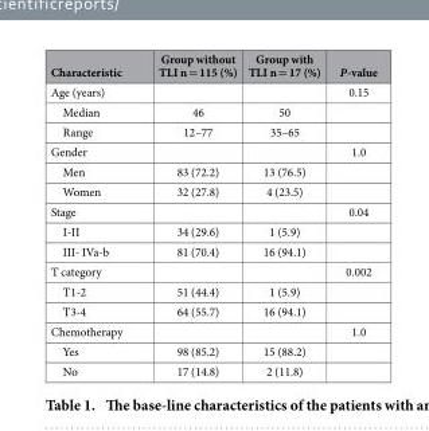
<table><thead><tr><td>Characteristic</td><td>Group without TLI n = 115 (%)</td><td>Group with TLI n = 17 (%)</td><td>P-value</td></tr></thead><tbody><tr><td>Age (years)</td><td></td><td></td><td>0.15</td></tr><tr><td>Median</td><td>46</td><td>50</td><td></td></tr><tr><td>Range</td><td>12–77</td><td>35–65</td><td></td></tr><tr><td>Gender</td><td></td><td></td><td>1.0</td></tr><tr><td>Men</td><td>83 (72.2)</td><td>13 (76.5)</td><td></td></tr><tr><td>Women</td><td>32 (27.8)</td><td>4 (23.5)</td><td></td></tr><tr><td>Stage</td><td></td><td></td><td>0.04</td></tr><tr><td>I-II</td><td>34 (29.6)</td><td>1 (5.9)</td><td></td></tr><tr><td>III- IVa-b</td><td>81 (70.4)</td><td>16 (94.1)</td><td></td></tr><tr><td>T category</td><td></td><td></td><td>0.002</td></tr><tr><td>T1-2</td><td>51 (44.4)</td><td>1 (5.9)</td><td></td></tr><tr><td>T3-4</td><td>64 (55.7)</td><td>16 (94.1)</td><td></td></tr><tr><td>Chemotherapy</td><td></td><td></td><td>1.0</td></tr><tr><td>Yes</td><td>98 (85.2)</td><td>15 (88.2)</td><td></td></tr><tr><td>No</td><td>17 (14.8)</td><td>2 (11.8)</td><td></td></tr></tbody></table>